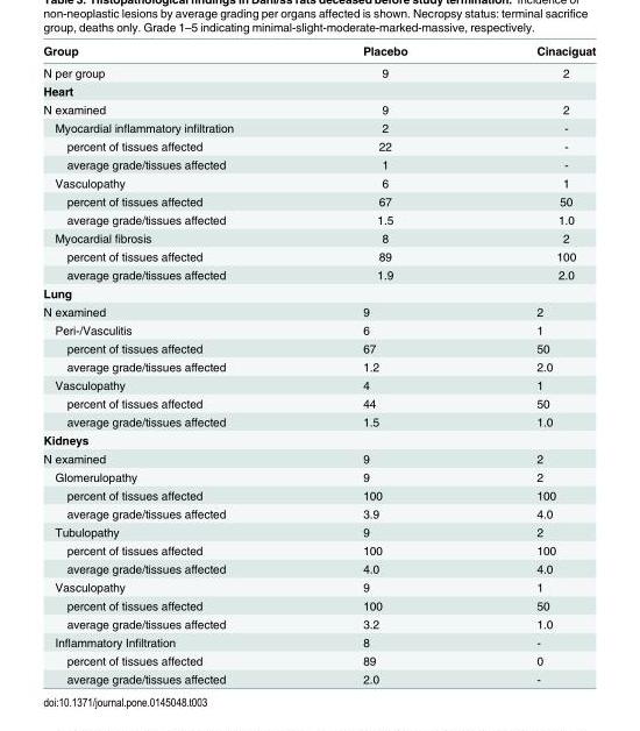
<table><thead><tr><td>Group</td><td>Placebo</td><td>Cinaciguat</td></tr></thead><tbody><tr><td>N per group</td><td>9</td><td>2</td></tr><tr><td colspan="3">Heart</td></tr><tr><td>N examined</td><td>9</td><td>2</td></tr><tr><td>Myocardial inflammatory infiltration</td><td>2</td><td>-</td></tr><tr><td>percent of tissues affected</td><td>22</td><td>-</td></tr><tr><td>average grade/tissues affected</td><td>1</td><td>-</td></tr><tr><td>Vasculopathy</td><td>6</td><td>1</td></tr><tr><td>percent of tissues affected</td><td>67</td><td>50</td></tr><tr><td>average grade/tissues affected</td><td>1.5</td><td>1.0</td></tr><tr><td>Myocardial fibrosis</td><td>8</td><td>2</td></tr><tr><td>percent of tissues affected</td><td>89</td><td>100</td></tr><tr><td>average grade/tissues affected</td><td>1.9</td><td>2.0</td></tr><tr><td colspan="3">Lung</td></tr><tr><td>N examined</td><td>9</td><td>2</td></tr><tr><td>Peri-/Vasculitis</td><td>6</td><td>1</td></tr><tr><td>percent of tissues affected</td><td>67</td><td>50</td></tr><tr><td>average grade/tissues affected</td><td>1.2</td><td>2.0</td></tr><tr><td>Vasculopathy</td><td>4</td><td>1</td></tr><tr><td>percent of tissues affected</td><td>44</td><td>50</td></tr><tr><td>average grade/tissues affected</td><td>1.5</td><td>1.0</td></tr><tr><td colspan="3">Kidneys</td></tr><tr><td>N examined</td><td>9</td><td>2</td></tr><tr><td>Glomerulopathy</td><td>9</td><td>2</td></tr><tr><td>percent of tissues affected</td><td>100</td><td>100</td></tr><tr><td>average grade/tissues affected</td><td>3.9</td><td>4.0</td></tr><tr><td>Tubulopathy</td><td>9</td><td>2</td></tr><tr><td>percent of tissues affected</td><td>100</td><td>100</td></tr><tr><td>average grade/tissues affected</td><td>4.0</td><td>4.0</td></tr><tr><td>Vasculopathy</td><td>9</td><td>1</td></tr><tr><td>percent of tissues affected</td><td>100</td><td>50</td></tr><tr><td>average grade/tissues affected</td><td>3.2</td><td>1.0</td></tr><tr><td>Inflammatory Infiltration</td><td>8</td><td>-</td></tr><tr><td>percent of tissues affected</td><td>89</td><td>0</td></tr><tr><td>average grade/tissues affected</td><td>2.0</td><td>-</td></tr></tbody></table>